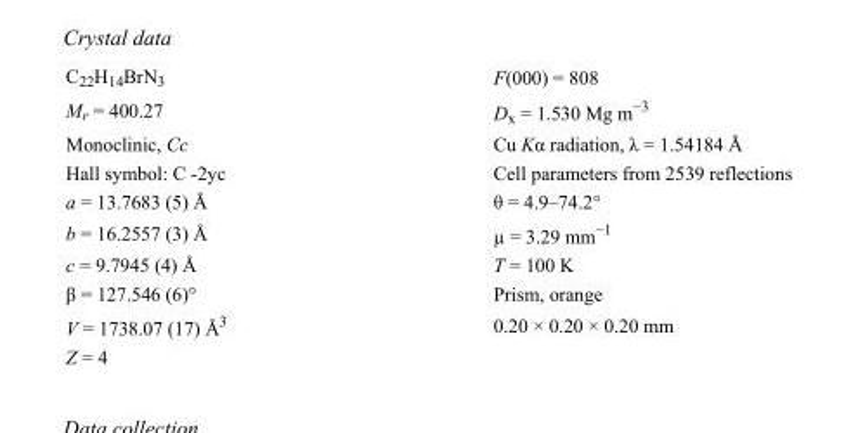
<table><tbody><tr><td>C<sub>22</sub>H<sub>14</sub>BrN<sub>3</sub></td><td>F(000) = 808</td></tr><tr><td>M<sub>r</sub> = 400.27</td><td>D<sub>x</sub> = 1.530 Mg m<sup>−3</sup></td></tr><tr><td>Monoclinic, Cc</td><td>Cu Kα radiation, λ = 1.54184 Å</td></tr><tr><td>Hall symbol: C -2yc</td><td>Cell parameters from 2539 reflections</td></tr><tr><td>a = 13.7683 (5) Å</td><td>θ = 4.9–74.2°</td></tr><tr><td>b = 16.2557 (3) Å</td><td>µ = 3.29 mm<sup>−1</sup></td></tr><tr><td>c = 9.7945 (4) Å</td><td>T = 100 K</td></tr><tr><td>β = 127.546 (6)°</td><td>Prism, orange</td></tr><tr><td>V = 1738.07 (17) Å<sup>3</sup></td><td>0.20 × 0.20 × 0.20 mm</td></tr><tr><td>Z = 4</td><td></td></tr></tbody></table>